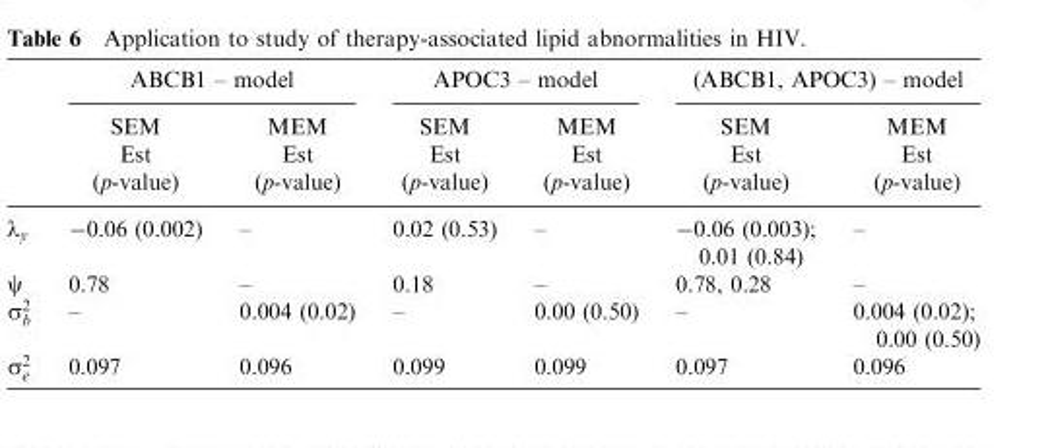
<table><thead><tr><td colspan="2">ABCB1 – model</td><td colspan="2">APOC3 – model</td><td colspan="2">(ABCB1, APOC3) – model</td></tr><tr><td rowspan="2">SEM Est (p-value)</td><td rowspan="2">MEM Est (p-value)</td><td rowspan="2">SEM Est (p-value)</td><td rowspan="2">MEM Est (p-value)</td><td rowspan="2">SEM Est (p-value)</td><td rowspan="2">MEM Est (p-value)</td></tr><tr></tr></thead><tbody><tr><td>−0.06 (0.002)</td><td>–</td><td>0.02 (0.53)</td><td>–</td><td>−0.06 (0.003); 0.01 (0.84)</td><td>–</td></tr><tr><td>0.78</td><td>–</td><td>0.18</td><td>–</td><td>0.78, 0.28</td><td>–</td></tr><tr><td>–</td><td>0.004 (0.02)</td><td>–</td><td>0.00 (0.50)</td><td>–</td><td>0.004 (0.02); 0.00 (0.50)</td></tr><tr><td>0.097</td><td>0.096</td><td>0.099</td><td>0.099</td><td>0.097</td><td>0.096</td></tr></tbody></table>